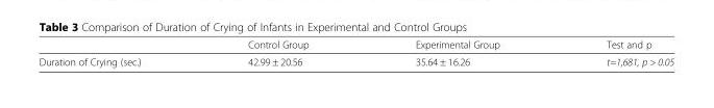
<table><thead><tr><td></td><td>Control Group</td><td>Experimental Group</td><td>Test and p</td></tr></thead><tbody><tr><td>Duration of Crying (sec.)</td><td>42.99 ± 20.56</td><td>35.64 ± 16.26</td><td>t=1,681, p &gt; 0.05</td></tr></tbody></table>